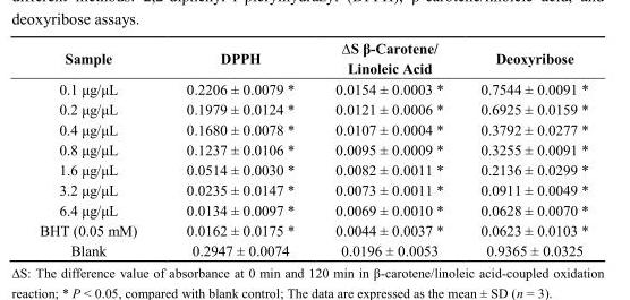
<table><thead><tr><td>Sample</td><td>DPPH</td><td>∆S β-Carotene/ Linoleic Acid</td><td>Deoxyribose</td></tr></thead><tbody><tr><td>0.1 μg/μL</td><td>0.2206 ± 0.0079 *</td><td>0.0154 ± 0.0003 *</td><td>0.7544 ± 0.0091 *</td></tr><tr><td>0.2 μg/μL</td><td>0.1979 ± 0.0124 *</td><td>0.0121 ± 0.0006 *</td><td>0.6925 ± 0.0159 *</td></tr><tr><td>0.4 μg/μL</td><td>0.1680 ± 0.0078 *</td><td>0.0107 ± 0.0004 *</td><td>0.3792 ± 0.0277 *</td></tr><tr><td>0.8 μg/μL</td><td>0.1237 ± 0.0106 *</td><td>0.0095 ± 0.0009 *</td><td>0.3255 ± 0.0091 *</td></tr><tr><td>1.6 μg/μL</td><td>0.0514 ± 0.0030 *</td><td>0.0082 ± 0.0011 *</td><td>0.2136 ± 0.0299 *</td></tr><tr><td>3.2 μg/μL</td><td>0.0235 ± 0.0147 *</td><td>0.0073 ± 0.0011 *</td><td>0.0911 ± 0.0049 *</td></tr><tr><td>6.4 μg/μL</td><td>0.0134 ± 0.0097 *</td><td>0.0069 ± 0.0010 *</td><td>0.0628 ± 0.0070 *</td></tr><tr><td>BHT (0.05 mM)</td><td>0.0162 ± 0.0175 *</td><td>0.0044 ± 0.0037 *</td><td>0.0623 ± 0.0103 *</td></tr><tr><td>Blank</td><td>0.2947 ± 0.0074</td><td>0.0196 ± 0.0053</td><td>0.9365 ± 0.0325</td></tr></tbody></table>